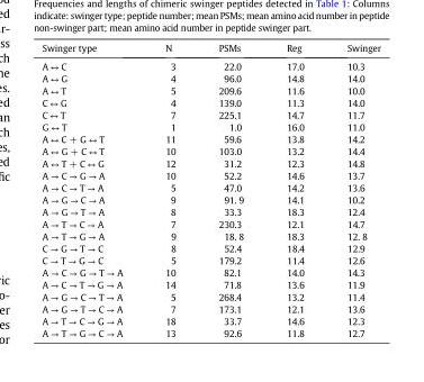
<table><thead><tr><td>Swinger type</td><td>N</td><td>PSMs</td><td>Reg</td><td>Swinger</td></tr></thead><tbody><tr><td>A ↔ C</td><td>3</td><td>22.0</td><td>17.0</td><td>10.3</td></tr><tr><td>A ↔ G</td><td>4</td><td>96.0</td><td>14.8</td><td>14.0</td></tr><tr><td>A ↔ T</td><td>5</td><td>209.6</td><td>11.6</td><td>10.0</td></tr><tr><td>C ↔ G</td><td>4</td><td>139.0</td><td>11.3</td><td>14.0</td></tr><tr><td>C ↔ T</td><td>7</td><td>225.1</td><td>14.7</td><td>11.7</td></tr><tr><td>G ↔ T</td><td>1</td><td>1.0</td><td>16.0</td><td>11.0</td></tr><tr><td>A ↔ C + G ↔ T</td><td>11</td><td>59.6</td><td>13.8</td><td>14.2</td></tr><tr><td>A ↔ G + C ↔ T</td><td>10</td><td>103.0</td><td>13.2</td><td>14.4</td></tr><tr><td>A ↔ T + C ↔ G</td><td>12</td><td>31.2</td><td>12.3</td><td>14.8</td></tr><tr><td>A → C → G → A</td><td>10</td><td>52.2</td><td>14.6</td><td>13.7</td></tr><tr><td>A → C → T → A</td><td>5</td><td>47.0</td><td>14.2</td><td>13.6</td></tr><tr><td>A → G → C → A</td><td>9</td><td>91. 9</td><td>14.1</td><td>10.2</td></tr><tr><td>A → G → T → A</td><td>8</td><td>33.3</td><td>18.3</td><td>12.4</td></tr><tr><td>A → T → C → A</td><td>7</td><td>230.3</td><td>12.1</td><td>14.7</td></tr><tr><td>A → T → G → A</td><td>9</td><td>18. 8</td><td>18.3</td><td>12. 8</td></tr><tr><td>C → G → T → C</td><td>8</td><td>52.4</td><td>18.4</td><td>12.9</td></tr><tr><td>C → T → G → C</td><td>5</td><td>179.2</td><td>11.4</td><td>12.6</td></tr><tr><td>A → C → G → T → A</td><td>10</td><td>82.1</td><td>14.0</td><td>14.3</td></tr><tr><td>A → C → T → G → A</td><td>14</td><td>71.8</td><td>13.6</td><td>11.9</td></tr><tr><td>A → G → C → T → A</td><td>5</td><td>268.4</td><td>13.2</td><td>11.4</td></tr><tr><td>A → G → T → C → A</td><td>7</td><td>173.1</td><td>12.1</td><td>13.6</td></tr><tr><td>A → T → C → G → A</td><td>18</td><td>33.7</td><td>14.6</td><td>12.3</td></tr><tr><td>A → T → G → C → A</td><td>13</td><td>92.6</td><td>11.8</td><td>12.7</td></tr></tbody></table>